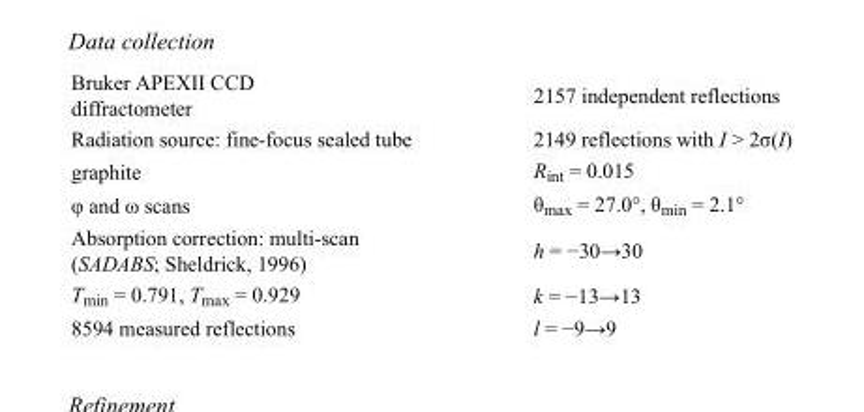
<table><tbody><tr><td>Bruker APEXII CCD diffractometer</td><td>2157 independent reflections</td></tr><tr><td>Radiation source: fine-focus sealed tube</td><td>2149 reflections with I &gt; 2σ(I)</td></tr><tr><td>graphite</td><td>R<sub>int</sub> = 0.015</td></tr><tr><td>φ and ω scans</td><td>θ<sub>max</sub> = 27.0°, θ<sub>min</sub> = 2.1°</td></tr><tr><td>Absorption correction: multi-scan (SADABS; Sheldrick, 1996)</td><td>h = −30→30</td></tr><tr><td>T<sub>min</sub> = 0.791, T<sub>max</sub> = 0.929</td><td>k = −13→13</td></tr><tr><td>8594 measured reflections</td><td>l = −9→9</td></tr></tbody></table>